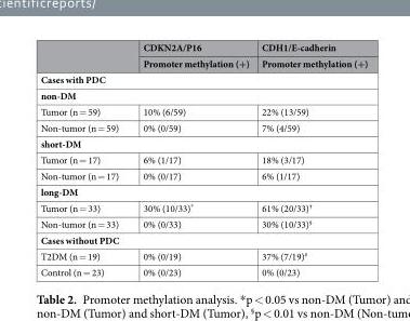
<table><thead><tr><td rowspan="2"></td><td rowspan="2">CDKN2A/P16 Promoter methylation (+)</td><td rowspan="2">CDH1/E-cadherin Promoter methylation (+)</td></tr><tr></tr></thead><tbody><tr><td colspan="3">Cases with PDC</td></tr><tr><td colspan="3">non-DM</td></tr><tr><td>Tumor (n = 59)</td><td>10% (6/59)</td><td>22% (13/59)</td></tr><tr><td>Non-tumor (n = 59)</td><td>0% (0/59)</td><td>7% (4/59)</td></tr><tr><td colspan="3">short-DM</td></tr><tr><td>Tumor (n = 17)</td><td>6% (1/17)</td><td>18% (3/17)</td></tr><tr><td>Non-tumor (n = 17)</td><td>0% (0/17)</td><td>6% (1/17)</td></tr><tr><td colspan="3">long-DM</td></tr><tr><td>Tumor (n = 33)</td><td>30% (10/33)*</td><td>61% (20/33)<sup>†</sup></td></tr><tr><td>Non-tumor (n = 33)</td><td>0% (0/33)</td><td>30% (10/33)<sup>§</sup></td></tr><tr><td colspan="3">Cases without PDC</td></tr><tr><td>T2DM (n = 19)</td><td>0% (0/19)</td><td>37% (7/19)<sup>#</sup></td></tr><tr><td>Control (n = 23)</td><td>0% (0/23)</td><td>0% (0/23)</td></tr></tbody></table>